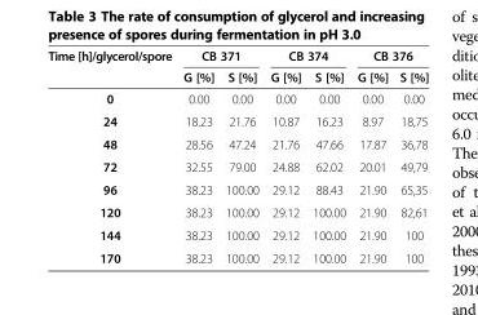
<table><thead><tr><td rowspan="2">Time [h]/glycerol/spore</td><td colspan="2">CB 371</td><td colspan="2">CB 374</td><td colspan="2">CB 376</td></tr><tr><td>G [%]</td><td>S [%]</td><td>G [%]</td><td>S [%]</td><td>G [%]</td><td>S [%]</td></tr></thead><tbody><tr><td>0</td><td>0.00</td><td>0.00</td><td>0.00</td><td>0.00</td><td>0.00</td><td>0.00</td></tr><tr><td>24</td><td>18.23</td><td>21.76</td><td>10.87</td><td>16.23</td><td>8.97</td><td>18,75</td></tr><tr><td>48</td><td>28.56</td><td>47.24</td><td>21.76</td><td>47.66</td><td>17.87</td><td>36,78</td></tr><tr><td>72</td><td>32.55</td><td>79.00</td><td>24.88</td><td>62.02</td><td>20.01</td><td>49,79</td></tr><tr><td>96</td><td>38.23</td><td>100.00</td><td>29.12</td><td>88.43</td><td>21.90</td><td>65,35</td></tr><tr><td>120</td><td>38.23</td><td>100.00</td><td>29.12</td><td>100.00</td><td>21.90</td><td>82,61</td></tr><tr><td>144</td><td>38.23</td><td>100.00</td><td>29.12</td><td>100.00</td><td>21.90</td><td>100</td></tr><tr><td>170</td><td>38.23</td><td>100.00</td><td>29.12</td><td>100.00</td><td>21.90</td><td>100</td></tr></tbody></table>